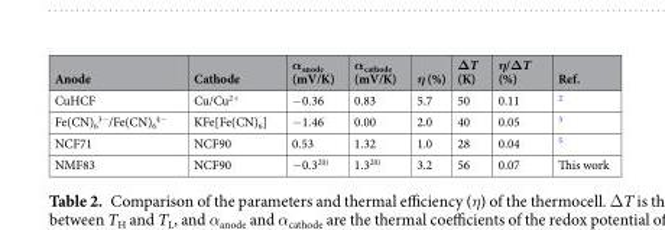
<table><thead><tr><td>Anode</td><td>Cathode</td><td>α<sub>anode</sub> (mV/K)</td><td>α<sub>cathode</sub> (mV/K)</td><td>η (%)</td><td>ΔT (K)</td><td>η/ΔT (%)</td><td>Ref.</td></tr></thead><tbody><tr><td>CuHCF</td><td>Cu/Cu<sup>2+</sup></td><td>−0.36</td><td>0.83</td><td>5.7</td><td>50</td><td>0.11</td><td><sup>2</sup></td></tr><tr><td>Fe(CN)<sub>6</sub> <sup>3−</sup>/Fe(CN)<sub>6</sub> <sup>4−</sup></td><td>KFe[Fe(CN)<sub>6</sub>]</td><td>−1.46</td><td>0.00</td><td>2.0</td><td>40</td><td>0.05</td><td><sup>3</sup></td></tr><tr><td>NCF71</td><td>NCF90</td><td>0.53</td><td>1.32</td><td>1.0</td><td>28</td><td>0.04</td><td><sup>5</sup></td></tr><tr><td>NMF83</td><td>NCF90</td><td>−0.3<sup>20)</sup></td><td>1.3<sup>20)</sup></td><td>3.2</td><td>56</td><td>0.07</td><td>This work</td></tr></tbody></table>